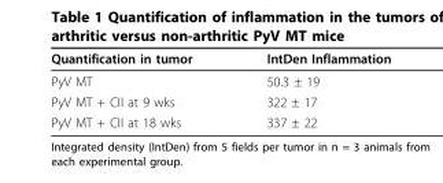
<table><thead><tr><td>Quantification in tumor</td><td>IntDen Inflammation</td></tr></thead><tbody><tr><td>PyV MT</td><td>50.3 ± 19</td></tr><tr><td>PyV MT + CII at 9 wks</td><td>322 ± 17</td></tr><tr><td>PyV MT + CII at 18 wks</td><td>337 ± 22</td></tr></tbody></table>